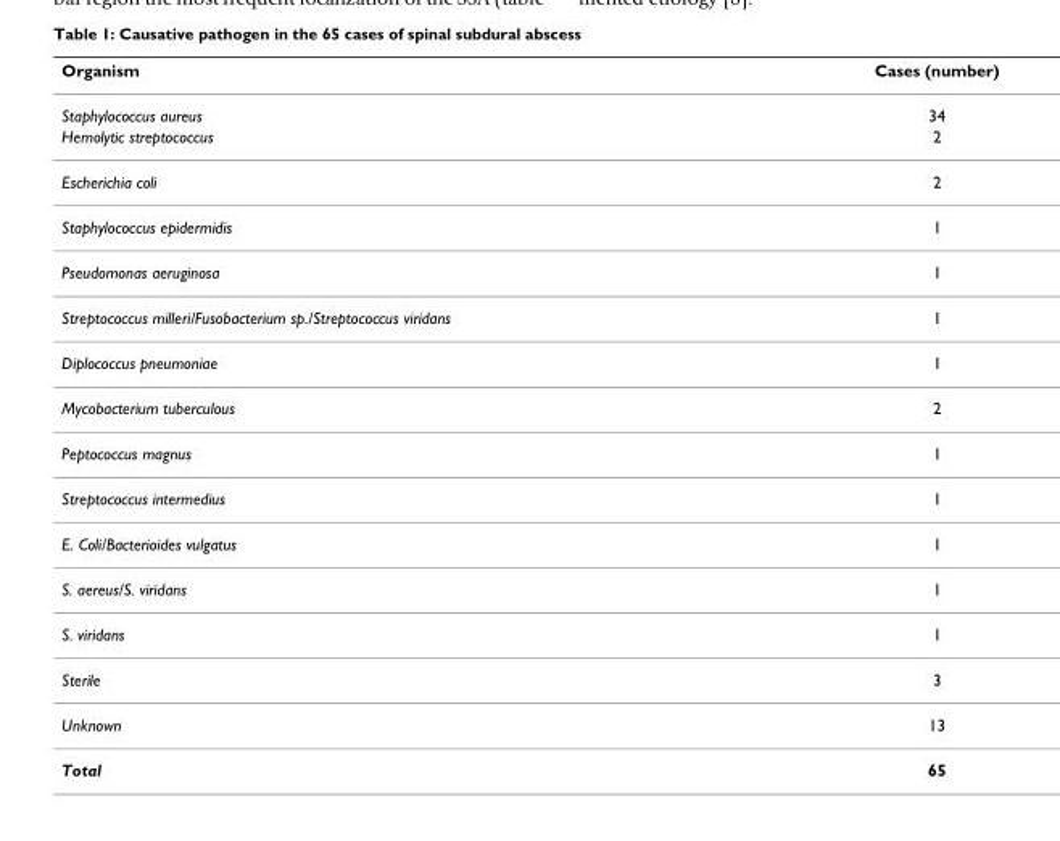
<table><thead><tr><td>Organism</td><td>Cases (number)</td></tr></thead><tbody><tr><td>Staphylococcus aureus</td><td>34</td></tr><tr><td>Hemolytic streptococcus</td><td>2</td></tr><tr><td>Escherichia coli</td><td>2</td></tr><tr><td>Staphylococcus epidermidis</td><td>1</td></tr><tr><td>Pseudomonas aeruginosa</td><td>1</td></tr><tr><td>Streptococcus milleri/Fusobacterium sp./Streptococcus viridans</td><td>1</td></tr><tr><td>Diplococcus pneumoniae</td><td>1</td></tr><tr><td>Mycobacterium tuberculous</td><td>2</td></tr><tr><td>Peptococcus magnus</td><td>1</td></tr><tr><td>Streptococcus intermedius</td><td>1</td></tr><tr><td>E. Coli/Bacterioides vulgatus</td><td>1</td></tr><tr><td>S. aereus/S. viridans</td><td>1</td></tr><tr><td>S. viridans</td><td>1</td></tr><tr><td>Sterile</td><td>3</td></tr><tr><td>Unknown</td><td>13</td></tr><tr><td>Total</td><td>65</td></tr></tbody></table>